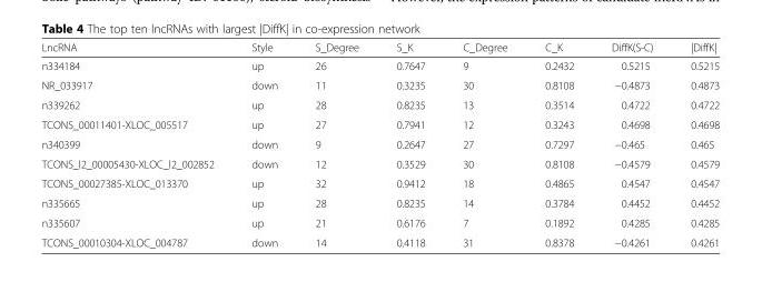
<table><thead><tr><td>LncRNA</td><td>Style</td><td>S_Degree</td><td>S_K</td><td>C_Degree</td><td>C_K</td><td>DiffK(S-C)</td><td>|DiffK|</td></tr></thead><tbody><tr><td>n334184</td><td>up</td><td>26</td><td>0.7647</td><td>9</td><td>0.2432</td><td>0.5215</td><td>0.5215</td></tr><tr><td>NR_033917</td><td>down</td><td>11</td><td>0.3235</td><td>30</td><td>0.8108</td><td>−0.4873</td><td>0.4873</td></tr><tr><td>n339262</td><td>up</td><td>28</td><td>0.8235</td><td>13</td><td>0.3514</td><td>0.4722</td><td>0.4722</td></tr><tr><td>TCONS_00011401-XLOC_005517</td><td>up</td><td>27</td><td>0.7941</td><td>12</td><td>0.3243</td><td>0.4698</td><td>0.4698</td></tr><tr><td>n340399</td><td>down</td><td>9</td><td>0.2647</td><td>27</td><td>0.7297</td><td>−0.465</td><td>0.465</td></tr><tr><td>TCONS_l2_00005430-XLOC_l2_002852</td><td>down</td><td>12</td><td>0.3529</td><td>30</td><td>0.8108</td><td>−0.4579</td><td>0.4579</td></tr><tr><td>TCONS_00027385-XLOC_013370</td><td>up</td><td>32</td><td>0.9412</td><td>18</td><td>0.4865</td><td>0.4547</td><td>0.4547</td></tr><tr><td>n335665</td><td>up</td><td>28</td><td>0.8235</td><td>14</td><td>0.3784</td><td>0.4452</td><td>0.4452</td></tr><tr><td>n335607</td><td>up</td><td>21</td><td>0.6176</td><td>7</td><td>0.1892</td><td>0.4285</td><td>0.4285</td></tr><tr><td>TCONS_00010304-XLOC_004787</td><td>down</td><td>14</td><td>0.4118</td><td>31</td><td>0.8378</td><td>−0.4261</td><td>0.4261</td></tr></tbody></table>